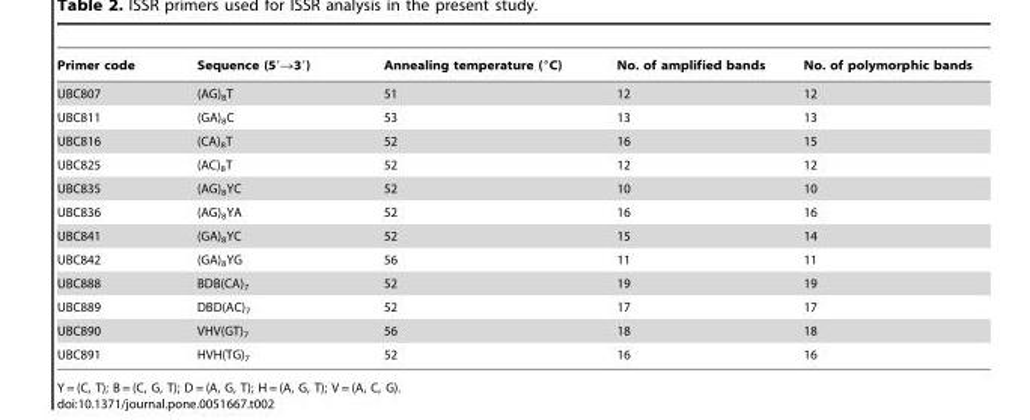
<table><thead><tr><td>Primer code</td><td>Sequence (5′→3′)</td><td>Annealing temperature (°C)</td><td>No. of amplified bands</td><td>No. of polymorphic bands</td></tr></thead><tbody><tr><td>UBC807</td><td>(AG)<sub>8</sub>T</td><td>51</td><td>12</td><td>12</td></tr><tr><td>UBC811</td><td>(GA)<sub>8</sub>C</td><td>53</td><td>13</td><td>13</td></tr><tr><td>UBC816</td><td>(CA)<sub>8</sub>T</td><td>52</td><td>16</td><td>15</td></tr><tr><td>UBC825</td><td>(AC)<sub>8</sub>T</td><td>52</td><td>12</td><td>12</td></tr><tr><td>UBC835</td><td>(AG)<sub>8</sub>YC</td><td>52</td><td>10</td><td>10</td></tr><tr><td>UBC836</td><td>(AG)<sub>8</sub>YA</td><td>52</td><td>16</td><td>16</td></tr><tr><td>UBC841</td><td>(GA)<sub>8</sub>YC</td><td>52</td><td>15</td><td>14</td></tr><tr><td>UBC842</td><td>(GA)<sub>8</sub>YG</td><td>56</td><td>11</td><td>11</td></tr><tr><td>UBC888</td><td>BDB(CA)<sub>7</sub></td><td>52</td><td>19</td><td>19</td></tr><tr><td>UBC889</td><td>DBD(AC)<sub>7</sub></td><td>52</td><td>17</td><td>17</td></tr><tr><td>UBC890</td><td>VHV(GT)<sub>7</sub></td><td>56</td><td>18</td><td>18</td></tr><tr><td>UBC891</td><td>HVH(TG)<sub>7</sub></td><td>52</td><td>16</td><td>16</td></tr></tbody></table>